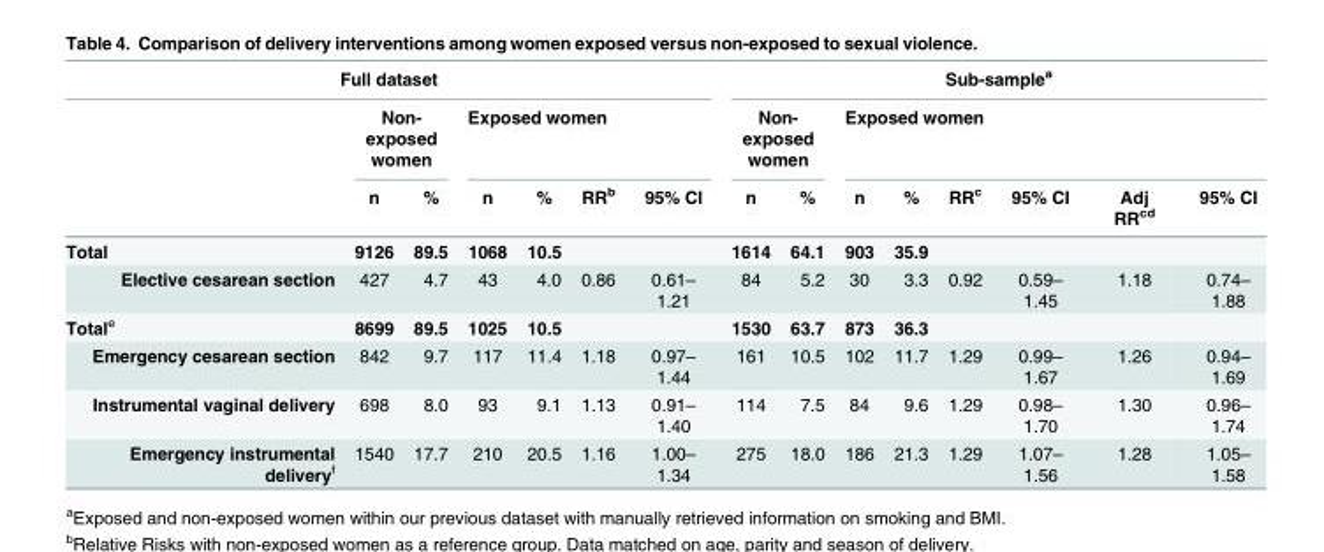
<table><thead><tr><td colspan="7">Full dataset</td><td colspan="8">Sub-sample<sup>a</sup></td></tr><tr><td rowspan="2"></td><td colspan="2">Non- exposed women</td><td colspan="4">Exposed women</td><td colspan="2">Non- exposed women</td><td colspan="6">Exposed women</td></tr><tr><td>n</td><td>%</td><td>n</td><td>%</td><td>RR<sup>b</sup></td><td>95% CI</td><td>n</td><td>%</td><td>n</td><td>%</td><td>RR<sup>c</sup></td><td>95% CI</td><td>Adj RR<sup>cd</sup></td><td>95% CI</td></tr></thead><tbody><tr><td>Total</td><td>9126</td><td>89.5</td><td>1068</td><td>10.5</td><td></td><td></td><td>1614</td><td>64.1</td><td>903</td><td>35.9</td><td></td><td></td><td></td><td></td></tr><tr><td>Elective cesarean section</td><td>427</td><td>4.7</td><td>43</td><td>4.0</td><td>0.86</td><td>0.61– 1.21</td><td>84</td><td>5.2</td><td>30</td><td>3.3</td><td>0.92</td><td>0.59– 1.45</td><td>1.18</td><td>0.74– 1.88</td></tr><tr><td>Total<sup>e</sup></td><td>8699</td><td>89.5</td><td>1025</td><td>10.5</td><td></td><td></td><td>1530</td><td>63.7</td><td>873</td><td>36.3</td><td></td><td></td><td></td><td></td></tr><tr><td>Emergency cesarean section</td><td>842</td><td>9.7</td><td>117</td><td>11.4</td><td>1.18</td><td>0.97– 1.44</td><td>161</td><td>10.5</td><td>102</td><td>11.7</td><td>1.29</td><td>0.99– 1.67</td><td>1.26</td><td>0.94– 1.69</td></tr><tr><td>Instrumental vaginal delivery</td><td>698</td><td>8.0</td><td>93</td><td>9.1</td><td>1.13</td><td>0.91– 1.40</td><td>114</td><td>7.5</td><td>84</td><td>9.6</td><td>1.29</td><td>0.98– 1.70</td><td>1.30</td><td>0.96– 1.74</td></tr><tr><td>Emergency instrumental delivery<sup>f</sup></td><td>1540</td><td>17.7</td><td>210</td><td>20.5</td><td>1.16</td><td>1.00– 1.34</td><td>275</td><td>18.0</td><td>186</td><td>21.3</td><td>1.29</td><td>1.07– 1.56</td><td>1.28</td><td>1.05– 1.58</td></tr></tbody></table>